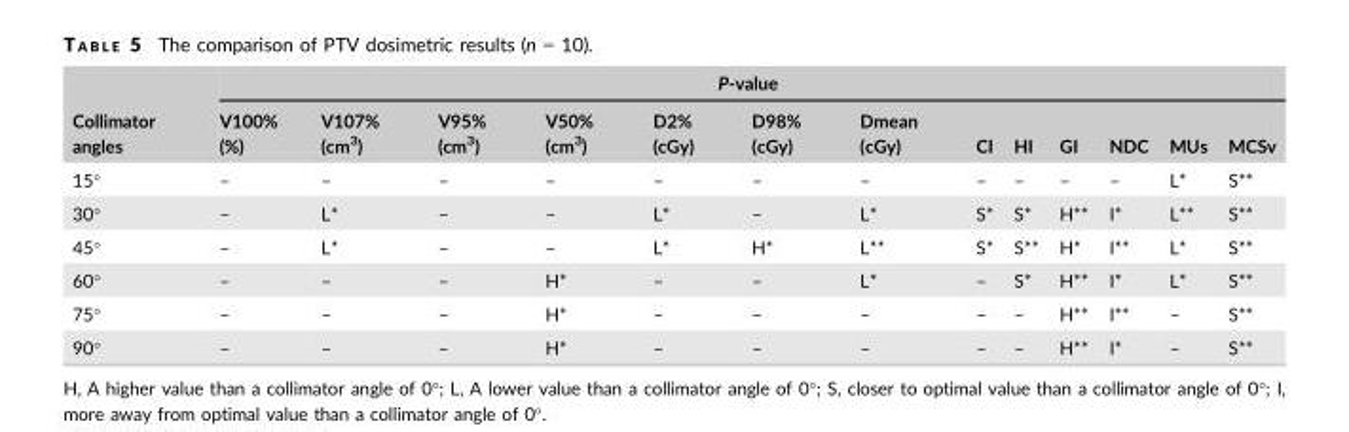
<table><thead><tr><td rowspan="2">Collimator angles</td><td colspan="13">P-value</td></tr><tr><td>V100% (%)</td><td>V107% (cm<sup>3</sup>)</td><td>V95% (cm<sup>3</sup>)</td><td>V50% (cm<sup>3</sup>)</td><td>D2% (cGy)</td><td>D98% (cGy)</td><td>Dmean (cGy)</td><td>CI</td><td>HI</td><td>GI</td><td>NDC</td><td>MUs</td><td>MCSv</td></tr></thead><tbody><tr><td>15°</td><td>–</td><td>–</td><td>–</td><td>–</td><td>–</td><td>–</td><td>–</td><td>–</td><td>–</td><td>–</td><td>–</td><td>L*</td><td>S**</td></tr><tr><td>30°</td><td>–</td><td>L*</td><td>–</td><td>–</td><td>L*</td><td>–</td><td>L*</td><td>S*</td><td>S*</td><td>H**</td><td>I*</td><td>L**</td><td>S**</td></tr><tr><td>45°</td><td>–</td><td>L*</td><td>–</td><td>–</td><td>L*</td><td>H*</td><td>L**</td><td>S*</td><td>S**</td><td>H*</td><td>I**</td><td>L*</td><td>S**</td></tr><tr><td>60°</td><td>–</td><td>–</td><td>–</td><td>H*</td><td>–</td><td>–</td><td>L*</td><td>–</td><td>S*</td><td>H**</td><td>I*</td><td>L*</td><td>S**</td></tr><tr><td>75°</td><td>–</td><td>–</td><td>–</td><td>H*</td><td>–</td><td>–</td><td>–</td><td>–</td><td>–</td><td>H**</td><td>I**</td><td>–</td><td>S**</td></tr><tr><td>90°</td><td>–</td><td>–</td><td>–</td><td>H*</td><td>–</td><td>–</td><td>–</td><td>–</td><td>–</td><td>H**</td><td>I*</td><td>–</td><td>S**</td></tr></tbody></table>